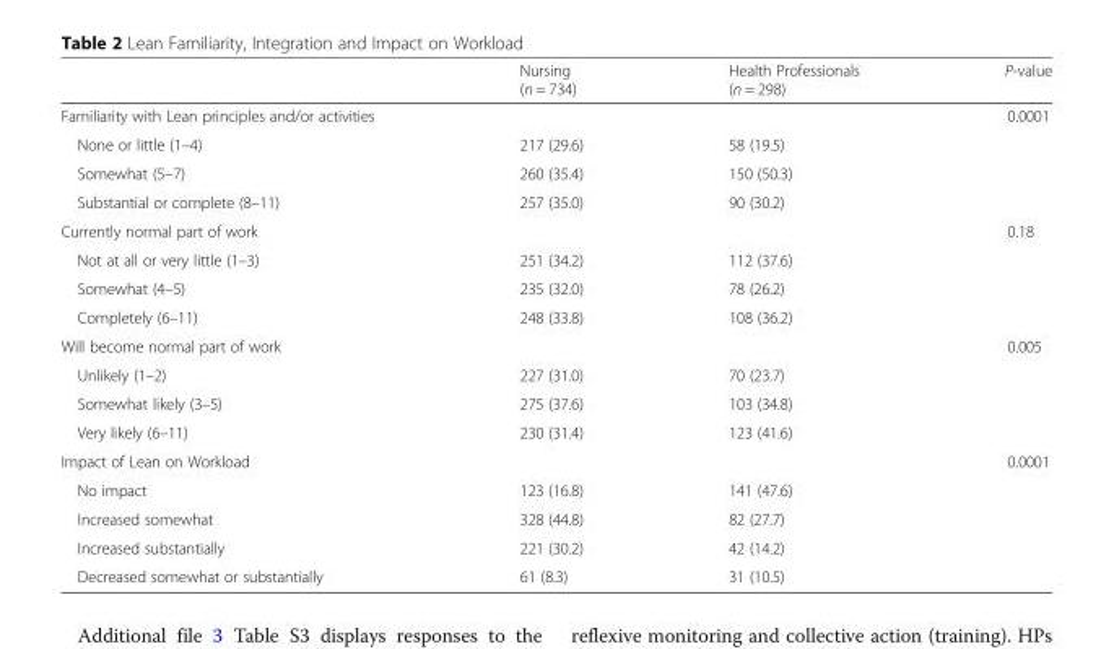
<table><thead><tr><td></td><td>Nursing (n = 734)</td><td>Health Professionals (n = 298)</td><td>P-value</td></tr></thead><tbody><tr><td>Familiarity with Lean principles and/or activities</td><td></td><td></td><td>0.0001</td></tr><tr><td>None or little (1–4)</td><td>217 (29.6)</td><td>58 (19.5)</td><td></td></tr><tr><td>Somewhat (5–7)</td><td>260 (35.4)</td><td>150 (50.3)</td><td></td></tr><tr><td>Substantial or complete (8–11)</td><td>257 (35.0)</td><td>90 (30.2)</td><td></td></tr><tr><td>Currently normal part of work</td><td></td><td></td><td>0.18</td></tr><tr><td>Not at all or very little (1–3)</td><td>251 (34.2)</td><td>112 (37.6)</td><td></td></tr><tr><td>Somewhat (4–5)</td><td>235 (32.0)</td><td>78 (26.2)</td><td></td></tr><tr><td>Completely (6–11)</td><td>248 (33.8)</td><td>108 (36.2)</td><td></td></tr><tr><td>Will become normal part of work</td><td></td><td></td><td>0.005</td></tr><tr><td>Unlikely (1–2)</td><td>227 (31.0)</td><td>70 (23.7)</td><td></td></tr><tr><td>Somewhat likely (3–5)</td><td>275 (37.6)</td><td>103 (34.8)</td><td></td></tr><tr><td>Very likely (6–11)</td><td>230 (31.4)</td><td>123 (41.6)</td><td></td></tr><tr><td>Impact of Lean on Workload</td><td></td><td></td><td>0.0001</td></tr><tr><td>No impact</td><td>123 (16.8)</td><td>141 (47.6)</td><td></td></tr><tr><td>Increased somewhat</td><td>328 (44.8)</td><td>82 (27.7)</td><td></td></tr><tr><td>Increased substantially</td><td>221 (30.2)</td><td>42 (14.2)</td><td></td></tr><tr><td>Decreased somewhat or substantially</td><td>61 (8.3)</td><td>31 (10.5)</td><td></td></tr></tbody></table>